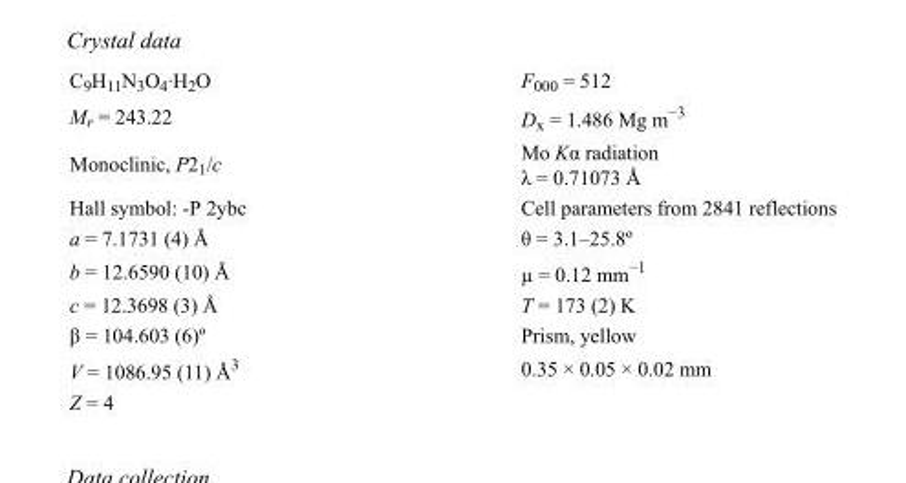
<table><tbody><tr><td>C<sub>9</sub>H<sub>11</sub>N<sub>3</sub>O<sub>4</sub>·H<sub>2</sub>O</td><td>F<sub>000</sub> = 512</td></tr><tr><td>M<sub>r</sub> = 243.22</td><td>D<sub>x</sub> = 1.486 Mg m<sup>−3</sup></td></tr><tr><td>Monoclinic, P2<sub>1</sub>/c</td><td>Mo Kα radiation λ = 0.71073 Å</td></tr><tr><td>Hall symbol: -P 2ybc</td><td>Cell parameters from 2841 reflections</td></tr><tr><td>a = 7.1731 (4) Å</td><td>θ = 3.1–25.8º</td></tr><tr><td>b = 12.6590 (10) Å</td><td>µ = 0.12 mm<sup>−1</sup></td></tr><tr><td>c = 12.3698 (3) Å</td><td>T = 173 (2) K</td></tr><tr><td>β = 104.603 (6)º</td><td>Prism, yellow</td></tr><tr><td>V = 1086.95 (11) Å<sup>3</sup></td><td>0.35 × 0.05 × 0.02 mm</td></tr><tr><td>Z = 4</td><td></td></tr></tbody></table>